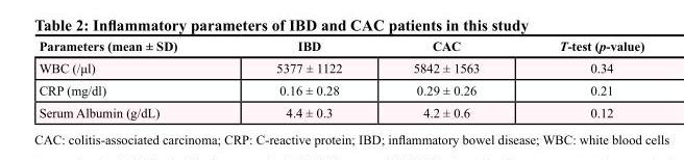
<table><thead><tr><td>Parameters (mean ± SD)</td><td>IBD</td><td>CAC</td><td>T-test (p-value)</td></tr></thead><tbody><tr><td>WBC (/μl)</td><td>5377 ± 1122</td><td>5842 ± 1563</td><td>0.34</td></tr><tr><td>CRP (mg/dl)</td><td>0.16 ± 0.28</td><td>0.29 ± 0.26</td><td>0.21</td></tr><tr><td>Serum Albumin (g/dL)</td><td>4.4 ± 0.3</td><td>4.2 ± 0.6</td><td>0.12</td></tr></tbody></table>